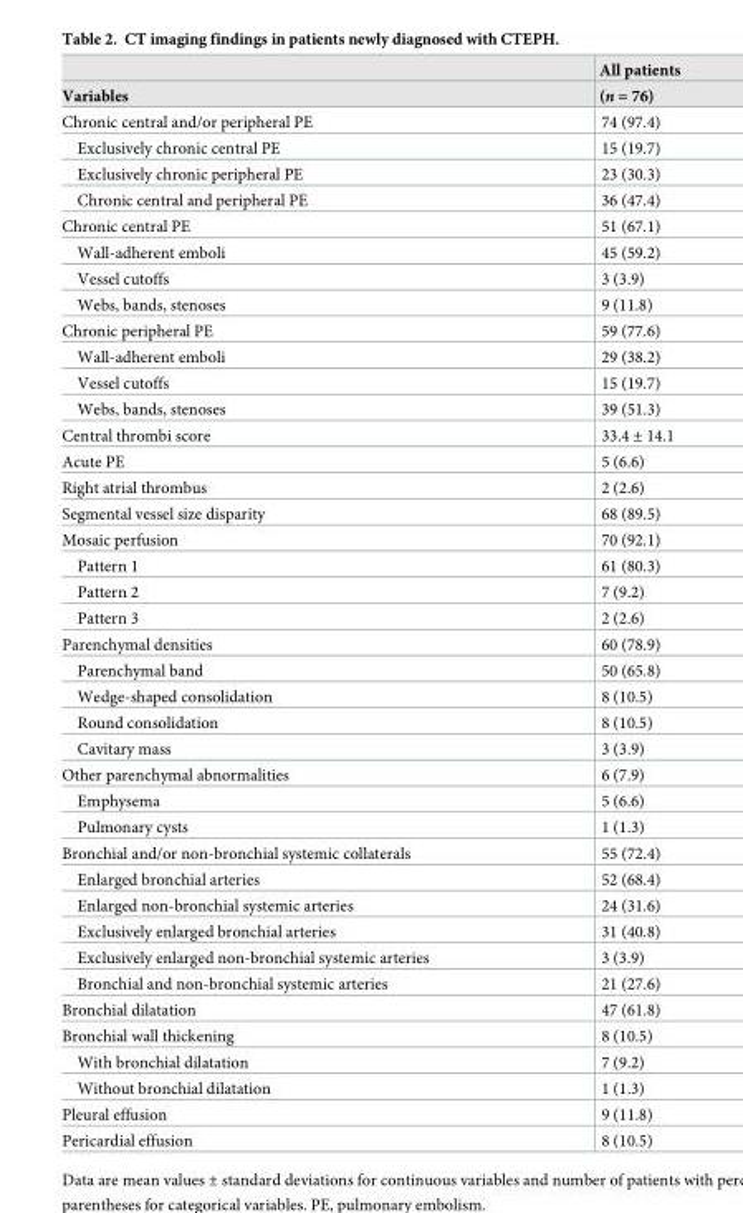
<table><thead><tr><td rowspan="2">Variables</td><td rowspan="2">All patients (n = 76)</td></tr><tr></tr></thead><tbody><tr><td>Chronic central and/or peripheral PE</td><td>74 (97.4)</td></tr><tr><td>Exclusively chronic central PE</td><td>15 (19.7)</td></tr><tr><td>Exclusively chronic peripheral PE</td><td>23 (30.3)</td></tr><tr><td>Chronic central and peripheral PE</td><td>36 (47.4)</td></tr><tr><td>Chronic central PE</td><td>51 (67.1)</td></tr><tr><td>Wall-adherent emboli</td><td>45 (59.2)</td></tr><tr><td>Vessel cutoffs</td><td>3 (3.9)</td></tr><tr><td>Webs, bands, stenoses</td><td>9 (11.8)</td></tr><tr><td>Chronic peripheral PE</td><td>59 (77.6)</td></tr><tr><td>Wall-adherent emboli</td><td>29 (38.2)</td></tr><tr><td>Vessel cutoffs</td><td>15 (19.7)</td></tr><tr><td>Webs, bands, stenoses</td><td>39 (51.3)</td></tr><tr><td>Central thrombi score</td><td>33.4 ± 14.1</td></tr><tr><td>Acute PE</td><td>5 (6.6)</td></tr><tr><td>Right atrial thrombus</td><td>2 (2.6)</td></tr><tr><td>Segmental vessel size disparity</td><td>68 (89.5)</td></tr><tr><td>Mosaic perfusion</td><td>70 (92.1)</td></tr><tr><td>Pattern 1</td><td>61 (80.3)</td></tr><tr><td>Pattern 2</td><td>7 (9.2)</td></tr><tr><td>Pattern 3</td><td>2 (2.6)</td></tr><tr><td>Parenchymal densities</td><td>60 (78.9)</td></tr><tr><td>Parenchymal band</td><td>50 (65.8)</td></tr><tr><td>Wedge-shaped consolidation</td><td>8 (10.5)</td></tr><tr><td>Round consolidation</td><td>8 (10.5)</td></tr><tr><td>Cavitary mass</td><td>3 (3.9)</td></tr><tr><td>Other parenchymal abnormalities</td><td>6 (7.9)</td></tr><tr><td>Emphysema</td><td>5 (6.6)</td></tr><tr><td>Pulmonary cysts</td><td>1 (1.3)</td></tr><tr><td>Bronchial and/or non-bronchial systemic collaterals</td><td>55 (72.4)</td></tr><tr><td>Enlarged bronchial arteries</td><td>52 (68.4)</td></tr><tr><td>Enlarged non-bronchial systemic arteries</td><td>24 (31.6)</td></tr><tr><td>Exclusively enlarged bronchial arteries</td><td>31 (40.8)</td></tr><tr><td>Exclusively enlarged non-bronchial systemic arteries</td><td>3 (3.9)</td></tr><tr><td>Bronchial and non-bronchial systemic arteries</td><td>21 (27.6)</td></tr><tr><td>Bronchial dilatation</td><td>47 (61.8)</td></tr><tr><td>Bronchial wall thickening</td><td>8 (10.5)</td></tr><tr><td>With bronchial dilatation</td><td>7 (9.2)</td></tr><tr><td>Without bronchial dilatation</td><td>1 (1.3)</td></tr><tr><td>Pleural effusion</td><td>9 (11.8)</td></tr><tr><td>Pericardial effusion</td><td>8 (10.5)</td></tr></tbody></table>